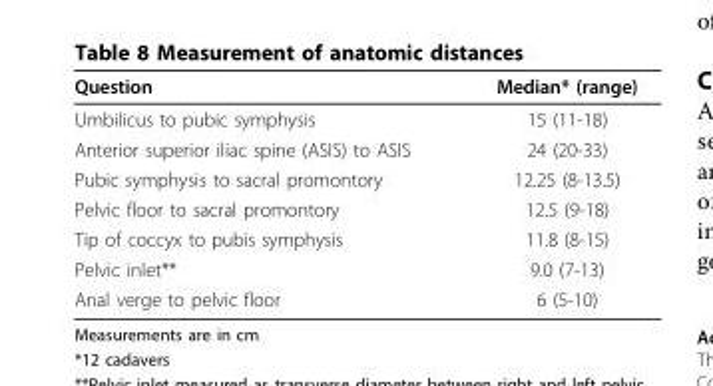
<table><thead><tr><td>Question</td><td>Median* (range)</td></tr></thead><tbody><tr><td>Umbilicus to pubic symphysis</td><td>15 (11-18)</td></tr><tr><td>Anterior superior iliac spine (ASIS) to ASIS</td><td>24 (20-33)</td></tr><tr><td>Pubic symphysis to sacral promontory</td><td>12.25 (8-13.5)</td></tr><tr><td>Pelvic floor to sacral promontory</td><td>12.5 (9-18)</td></tr><tr><td>Tip of coccyx to pubis symphysis</td><td>11.8 (8-15)</td></tr><tr><td>Pelvic inlet**</td><td>9.0 (7-13)</td></tr><tr><td>Anal verge to pelvic floor</td><td>6 (5-10)</td></tr></tbody></table>